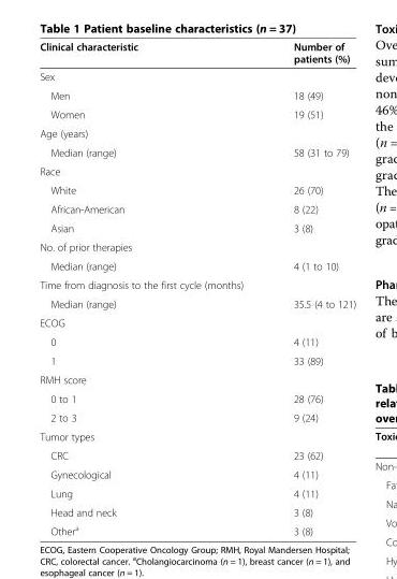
<table><thead><tr><td>Clinical characteristic</td><td>Number of patients (%)</td></tr></thead><tbody><tr><td colspan="2">Sex</td></tr><tr><td>Men</td><td>18 (49)</td></tr><tr><td>Women</td><td>19 (51)</td></tr><tr><td colspan="2">Age (years)</td></tr><tr><td>Median (range)</td><td>58 (31 to 79)</td></tr><tr><td colspan="2">Race</td></tr><tr><td>White</td><td>26 (70)</td></tr><tr><td>African-American</td><td>8 (22)</td></tr><tr><td>Asian</td><td>3 (8)</td></tr><tr><td colspan="2">No. of prior therapies</td></tr><tr><td>Median (range)</td><td>4 (1 to 10)</td></tr><tr><td colspan="2">Time from diagnosis to the first cycle (months)</td></tr><tr><td>Median (range)</td><td>35.5 (4 to 121)</td></tr><tr><td colspan="2">ECOG</td></tr><tr><td>0</td><td>4 (11)</td></tr><tr><td>1</td><td>33 (89)</td></tr><tr><td colspan="2">RMH score</td></tr><tr><td>0 to 1</td><td>28 (76)</td></tr><tr><td>2 to 3</td><td>9 (24)</td></tr><tr><td colspan="2">Tumor types</td></tr><tr><td>CRC</td><td>23 (62)</td></tr><tr><td>Gynecological</td><td>4 (11)</td></tr><tr><td>Lung</td><td>4 (11)</td></tr><tr><td>Head and neck</td><td>3 (8)</td></tr><tr><td>Other<sup>a</sup></td><td>3 (8)</td></tr></tbody></table>